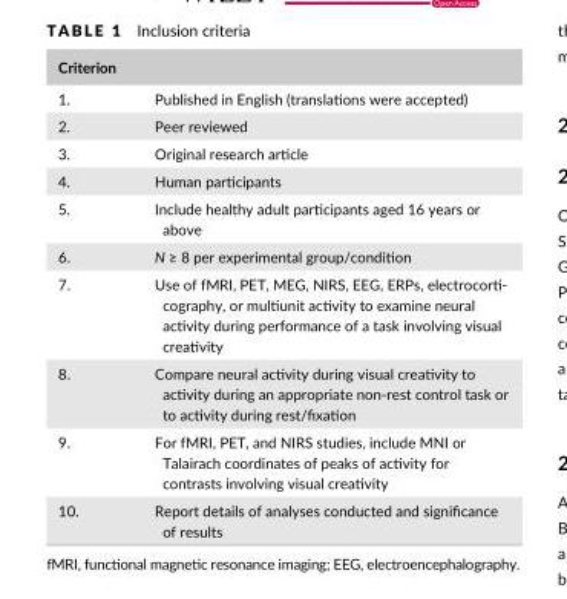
<table><thead><tr><td colspan="2">Criterion</td></tr><tr><td>1.</td><td>Published in English (translations were accepted)</td></tr></thead><tbody><tr><td>2.</td><td>Peer reviewed</td></tr><tr><td>3.</td><td>Original research article</td></tr><tr><td>4.</td><td>Human participants</td></tr><tr><td>5.</td><td>Include healthy adult participants aged 16 years or above</td></tr><tr><td>6.</td><td>N ≥ 8 per experimental group/condition</td></tr><tr><td>7.</td><td>Use of fMRI, PET, MEG, NIRS, EEG, ERPs, electrocorti- cography, or multiunit activity to examine neural activity during performance of a task involving visual creativity</td></tr><tr><td>8.</td><td>Compare neural activity during visual creativity to activity during an appropriate non-rest control task or to activity during rest/fixation</td></tr><tr><td>9.</td><td>For fMRI, PET, and NIRS studies, include MNI or Talairach coordinates of peaks of activity for contrasts involving visual creativity</td></tr><tr><td>10.</td><td>Report details of analyses conducted and significance of results</td></tr></tbody></table>